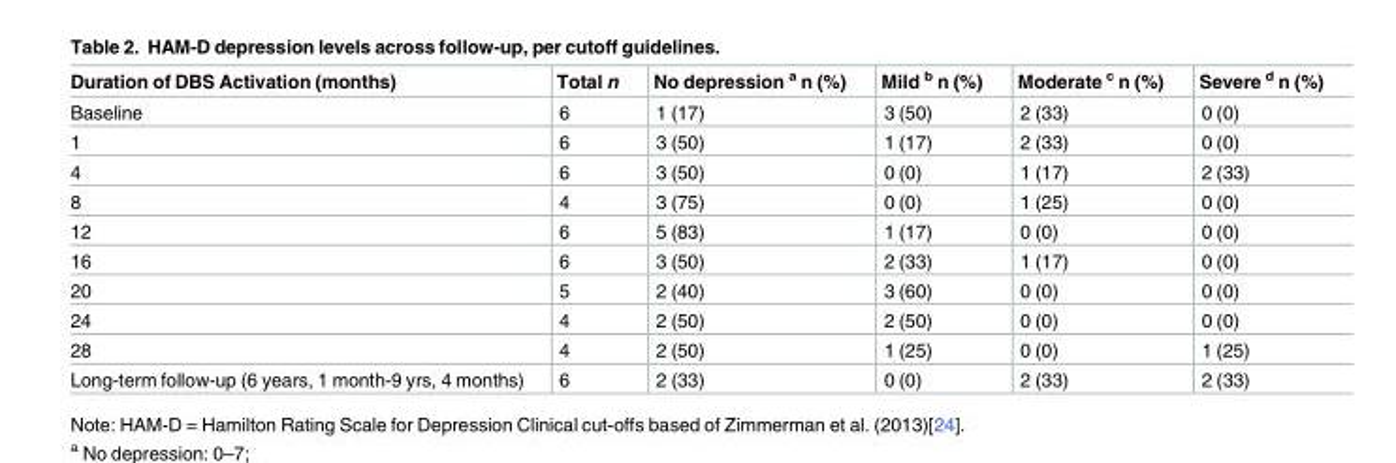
<table><thead><tr><td>Duration of DBS Activation (months)</td><td>Total n</td><td>No depression <sup>a</sup> n (%)</td><td>Mild <sup>b</sup> n (%)</td><td>Moderate <sup>c</sup> n (%)</td><td>Severe <sup>d</sup> n (%)</td></tr></thead><tbody><tr><td>Baseline</td><td>6</td><td>1 (17)</td><td>3 (50)</td><td>2 (33)</td><td>0 (0)</td></tr><tr><td>1</td><td>6</td><td>3 (50)</td><td>1 (17)</td><td>2 (33)</td><td>0 (0)</td></tr><tr><td>4</td><td>6</td><td>3 (50)</td><td>0 (0)</td><td>1 (17)</td><td>2 (33)</td></tr><tr><td>8</td><td>4</td><td>3 (75)</td><td>0 (0)</td><td>1 (25)</td><td>0 (0)</td></tr><tr><td>12</td><td>6</td><td>5 (83)</td><td>1 (17)</td><td>0 (0)</td><td>0 (0)</td></tr><tr><td>16</td><td>6</td><td>3 (50)</td><td>2 (33)</td><td>1 (17)</td><td>0 (0)</td></tr><tr><td>20</td><td>5</td><td>2 (40)</td><td>3 (60)</td><td>0 (0)</td><td>0 (0)</td></tr><tr><td>24</td><td>4</td><td>2 (50)</td><td>2 (50)</td><td>0 (0)</td><td>0 (0)</td></tr><tr><td>28</td><td>4</td><td>2 (50)</td><td>1 (25)</td><td>0 (0)</td><td>1 (25)</td></tr><tr><td>Long-term follow-up (6 years, 1 month-9 yrs, 4 months)</td><td>6</td><td>2 (33)</td><td>0 (0)</td><td>2 (33)</td><td>2 (33)</td></tr></tbody></table>